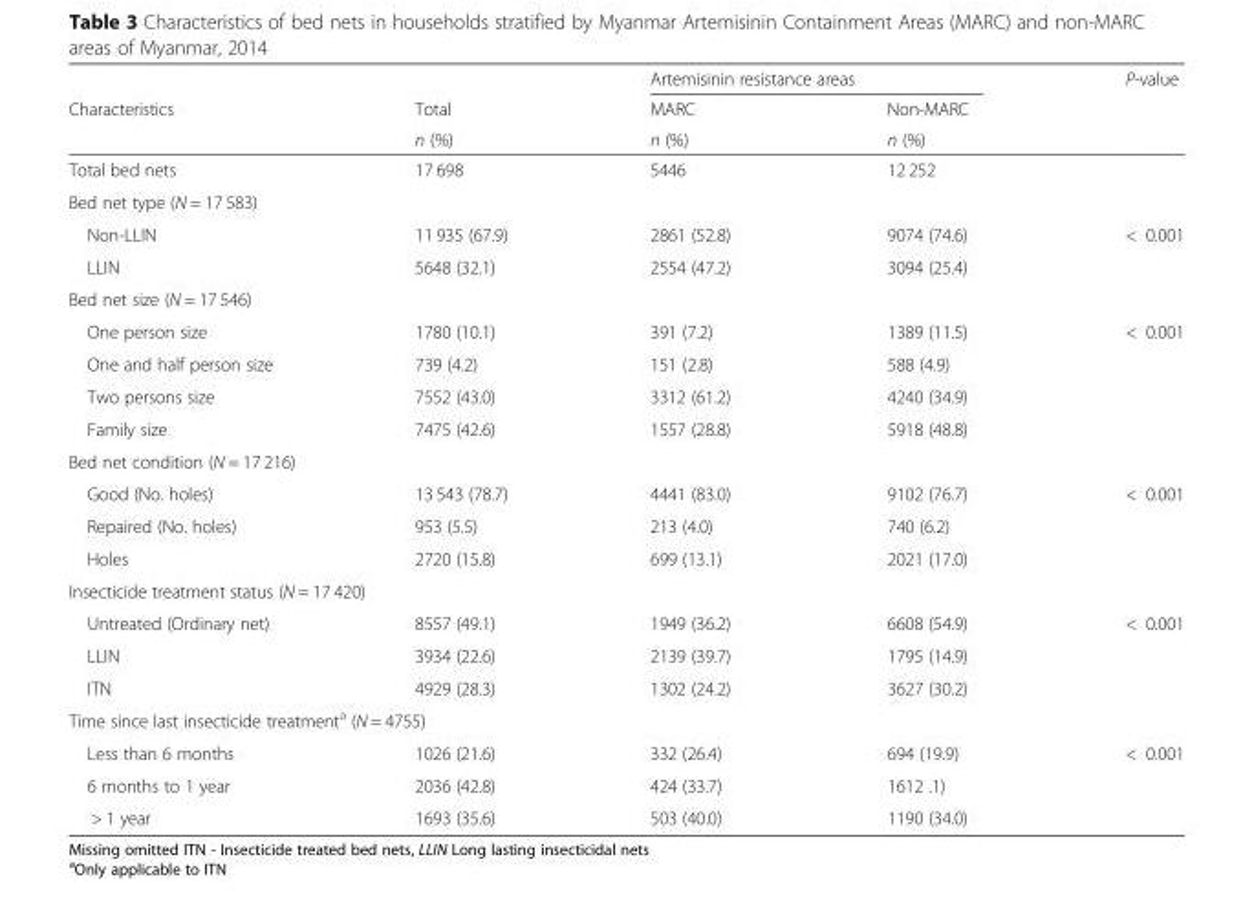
<table><thead><tr><td rowspan="3">Characteristics</td><td rowspan="3">Total n (%)</td><td colspan="2">Artemisinin resistance areas</td><td rowspan="3">P-value</td></tr><tr><td rowspan="2">MARC n (%)</td><td rowspan="2">Non-MARC n (%)</td></tr><tr></tr></thead><tbody><tr><td>Total bed nets</td><td>17 698</td><td>5446</td><td>12 252</td><td></td></tr><tr><td colspan="5">Bed net type (N = 17 583)</td></tr><tr><td>Non-LLIN</td><td>11 935 (67.9)</td><td>2861 (52.8)</td><td>9074 (74.6)</td><td rowspan="2">&lt; 0.001</td></tr><tr><td>LLIN</td><td>5648 (32.1)</td><td>2554 (47.2)</td><td>3094 (25.4)</td></tr><tr><td colspan="5">Bed net size (N = 17 546)</td></tr><tr><td>One person size</td><td>1780 (10.1)</td><td>391 (7.2)</td><td>1389 (11.5)</td><td rowspan="4">&lt; 0.001</td></tr><tr><td>One and half person size</td><td>739 (4.2)</td><td>151 (2.8)</td><td>588 (4.9)</td></tr><tr><td>Two persons size</td><td>7552 (43.0)</td><td>3312 (61.2)</td><td>4240 (34.9)</td></tr><tr><td>Family size</td><td>7475 (42.6)</td><td>1557 (28.8)</td><td>5918 (48.8)</td></tr><tr><td colspan="5">Bed net condition (N = 17 216)</td></tr><tr><td>Good (No. holes)</td><td>13 543 (78.7)</td><td>4441 (83.0)</td><td>9102 (76.7)</td><td rowspan="3">&lt; 0.001</td></tr><tr><td>Repaired (No. holes)</td><td>953 (5.5)</td><td>213 (4.0)</td><td>740 (6.2)</td></tr><tr><td>Holes</td><td>2720 (15.8)</td><td>699 (13.1)</td><td>2021 (17.0)</td></tr><tr><td colspan="5">Insecticide treatment status (N = 17 420)</td></tr><tr><td>Untreated (Ordinary net)</td><td>8557 (49.1)</td><td>1949 (36.2)</td><td>6608 (54.9)</td><td rowspan="3">&lt; 0.001</td></tr><tr><td>LLIN</td><td>3934 (22.6)</td><td>2139 (39.7)</td><td>1795 (14.9)</td></tr><tr><td>ITN</td><td>4929 (28.3)</td><td>1302 (24.2)</td><td>3627 (30.2)</td></tr><tr><td colspan="5">Time since last insecticide treatment<sup>a</sup> (N = 4755)</td></tr><tr><td>Less than 6 months</td><td>1026 (21.6)</td><td>332 (26.4)</td><td>694 (19.9)</td><td rowspan="3">&lt; 0.001</td></tr><tr><td>6 months to 1 year</td><td>2036 (42.8)</td><td>424 (33.7)</td><td>1612 .1)</td></tr><tr><td>&gt; 1 year</td><td>1693 (35.6)</td><td>503 (40.0)</td><td>1190 (34.0)</td></tr></tbody></table>